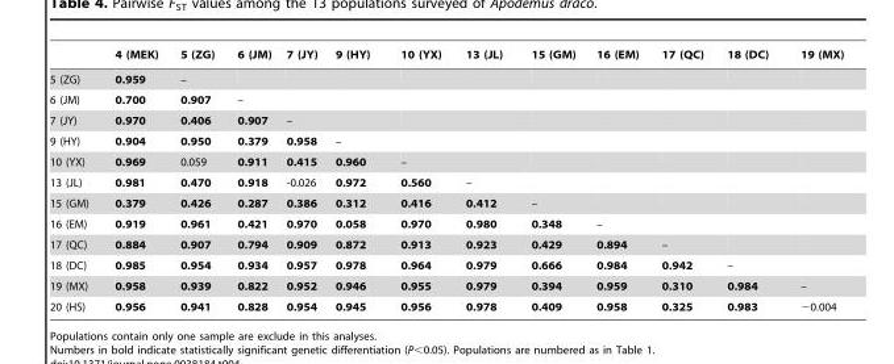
<table><thead><tr><td></td><td>4 (MEK)</td><td>5 (ZG)</td><td>6 (JM)</td><td>7 (JY)</td><td>9 (HY)</td><td>10 (YX)</td><td>13 (JL)</td><td>15 (GM)</td><td>16 (EM)</td><td>17 (QC)</td><td>18 (DC)</td><td>19 (MX)</td></tr></thead><tbody><tr><td>5 (ZG)</td><td>0.959</td><td>–</td><td></td><td></td><td></td><td></td><td></td><td></td><td></td><td></td><td></td><td></td></tr><tr><td>6 (JM)</td><td>0.700</td><td>0.907</td><td>–</td><td></td><td></td><td></td><td></td><td></td><td></td><td></td><td></td><td></td></tr><tr><td>7 (JY)</td><td>0.970</td><td>0.406</td><td>0.907</td><td>–</td><td></td><td></td><td></td><td></td><td></td><td></td><td></td><td></td></tr><tr><td>9 (HY)</td><td>0.904</td><td>0.950</td><td>0.379</td><td>0.958</td><td>–</td><td></td><td></td><td></td><td></td><td></td><td></td><td></td></tr><tr><td>10 (YX)</td><td>0.969</td><td>0.059</td><td>0.911</td><td>0.415</td><td>0.960</td><td>–</td><td></td><td></td><td></td><td></td><td></td><td></td></tr><tr><td>13 (JL)</td><td>0.981</td><td>0.470</td><td>0.918</td><td>-0.026</td><td>0.972</td><td>0.560</td><td>–</td><td></td><td></td><td></td><td></td><td></td></tr><tr><td>15 (GM)</td><td>0.379</td><td>0.426</td><td>0.287</td><td>0.386</td><td>0.312</td><td>0.416</td><td>0.412</td><td>–</td><td></td><td></td><td></td><td></td></tr><tr><td>16 (EM)</td><td>0.919</td><td>0.961</td><td>0.421</td><td>0.970</td><td>0.058</td><td>0.970</td><td>0.980</td><td>0.348</td><td>–</td><td></td><td></td><td></td></tr><tr><td>17 (QC)</td><td>0.884</td><td>0.907</td><td>0.794</td><td>0.909</td><td>0.872</td><td>0.913</td><td>0.923</td><td>0.429</td><td>0.894</td><td>–</td><td></td><td></td></tr><tr><td>18 (DC)</td><td>0.985</td><td>0.954</td><td>0.934</td><td>0.957</td><td>0.978</td><td>0.964</td><td>0.979</td><td>0.666</td><td>0.984</td><td>0.942</td><td>–</td><td></td></tr><tr><td>19 (MX)</td><td>0.958</td><td>0.939</td><td>0.822</td><td>0.952</td><td>0.946</td><td>0.955</td><td>0.979</td><td>0.394</td><td>0.959</td><td>0.310</td><td>0.984</td><td>–</td></tr><tr><td>20 (HS)</td><td>0.956</td><td>0.941</td><td>0.828</td><td>0.954</td><td>0.945</td><td>0.956</td><td>0.978</td><td>0.409</td><td>0.958</td><td>0.325</td><td>0.983</td><td>−0.004</td></tr></tbody></table>